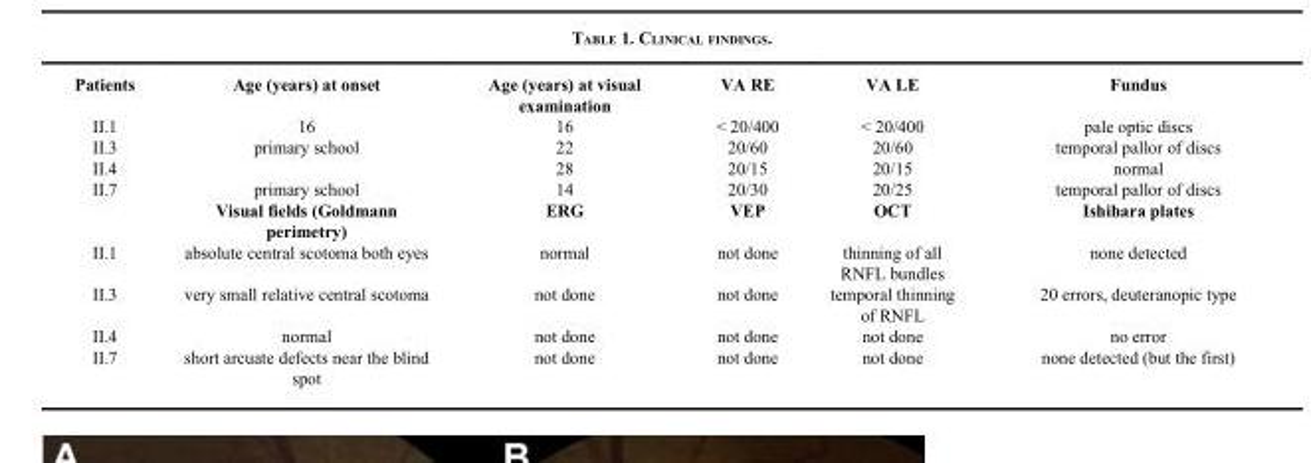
<table><thead><tr><td>Patients</td><td>Age (years) at onset</td><td>Age (years) at visual examination</td><td>VA RE</td><td>VA LE</td><td>Fundus</td></tr></thead><tbody><tr><td>II.1</td><td>16</td><td>16</td><td>&lt; 20/400</td><td>&lt; 20/400</td><td>pale optic discs</td></tr><tr><td>II.3</td><td>primary school</td><td>22</td><td>20/60</td><td>20/60</td><td>temporal pallor of discs</td></tr><tr><td>II.4</td><td></td><td>28</td><td>20/15</td><td>20/15</td><td>normal</td></tr><tr><td rowspan="2">II.7</td><td>primary school</td><td>14</td><td>20/30</td><td>20/25</td><td>temporal pallor of discs</td></tr><tr><td>Visual fields (Goldmann perimetry)</td><td>ERG</td><td>VEP</td><td>OCT</td><td>Ishihara plates</td></tr><tr><td>II.1</td><td>absolute central scotoma both eyes</td><td>normal</td><td>not done</td><td>thinning of all RNFL bundles</td><td>none detected</td></tr><tr><td>II.3</td><td>very small relative central scotoma</td><td>not done</td><td>not done</td><td>temporal thinning of RNFL</td><td>20 errors, deuteranopic type</td></tr><tr><td>II.4</td><td>normal</td><td>not done</td><td>not done</td><td>not done</td><td>no error</td></tr><tr><td>II.7</td><td>short arcuate defects near the blind spot</td><td>not done</td><td>not done</td><td>not done</td><td>none detected (but the first)</td></tr></tbody></table>